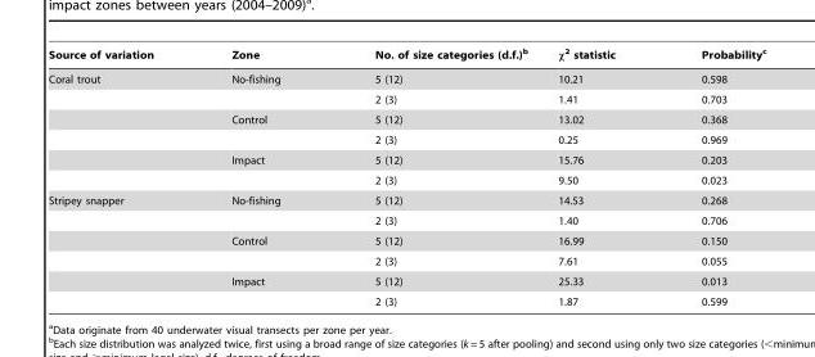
<table><thead><tr><td>Source of variation</td><td>Zone</td><td>No. of size categories (d.f.)<sup>b</sup></td><td>χ<sup>2</sup> statistic</td><td>Probability<sup>c</sup></td></tr></thead><tbody><tr><td rowspan="6">Coral trout</td><td>No-fishing</td><td>5 (12)</td><td>10.21</td><td>0.598</td></tr><tr><td></td><td>2 (3)</td><td>1.41</td><td>0.703</td></tr><tr><td>Control</td><td>5 (12)</td><td>13.02</td><td>0.368</td></tr><tr><td></td><td>2 (3)</td><td>0.25</td><td>0.969</td></tr><tr><td>Impact</td><td>5 (12)</td><td>15.76</td><td>0.203</td></tr><tr><td></td><td>2 (3)</td><td>9.50</td><td>0.023</td></tr><tr><td rowspan="6">Stripey snapper</td><td>No-fishing</td><td>5 (12)</td><td>14.53</td><td>0.268</td></tr><tr><td></td><td>2 (3)</td><td>1.40</td><td>0.706</td></tr><tr><td>Control</td><td>5 (12)</td><td>16.99</td><td>0.150</td></tr><tr><td></td><td>2 (3)</td><td>7.61</td><td>0.055</td></tr><tr><td>Impact</td><td>5 (12)</td><td>25.33</td><td>0.013</td></tr><tr><td></td><td>2 (3)</td><td>1.87</td><td>0.599</td></tr></tbody></table>